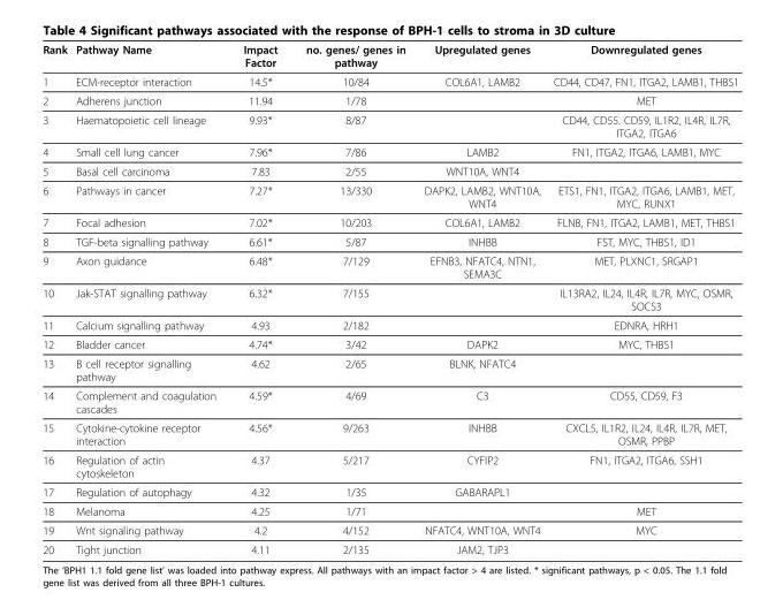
<table><thead><tr><td>Rank</td><td>Pathway Name</td><td>Impact Factor</td><td>no. genes/ genes in pathway</td><td>Upregulated genes</td><td>Downregulated genes</td></tr></thead><tbody><tr><td>1</td><td>ECM-receptor interaction</td><td>14.5*</td><td>10/84</td><td>COL6A1, LAMB2</td><td>CD44, CD47, FN1, ITGA2, LAMB1, THBS1</td></tr><tr><td>2</td><td>Adherens junction</td><td>11.94</td><td>1/78</td><td></td><td>MET</td></tr><tr><td>3</td><td>Haematopoietic cell lineage</td><td>9.93*</td><td>8/87</td><td></td><td>CD44, CD55. CD59, IL1R2, IL4R, IL7R, ITGA2, ITGA6</td></tr><tr><td>4</td><td>Small cell lung cancer</td><td>7.96*</td><td>7/86</td><td>LAMB2</td><td>FN1, ITGA2, ITGA6, LAMB1, MYC</td></tr><tr><td>5</td><td>Basal cell carcinoma</td><td>7.83</td><td>2/55</td><td>WNT10A, WNT4</td><td></td></tr><tr><td>6</td><td>Pathways in cancer</td><td>7.27*</td><td>13/330</td><td>DAPK2, LAMB2, WNT10A, WNT4</td><td>ETS1, FN1, ITGA2, ITGA6, LAMB1, MET, MYC, RUNX1</td></tr><tr><td>7</td><td>Focal adhesion</td><td>7.02*</td><td>10/203</td><td>COL6A1, LAMB2</td><td>FLNB, FN1, ITGA2, LAMB1, MET, THBS1</td></tr><tr><td>8</td><td>TGF-beta signalling pathway</td><td>6.61*</td><td>5/87</td><td>INHBB</td><td>FST, MYC, THBS1, ID1</td></tr><tr><td>9</td><td>Axon guidance</td><td>6.48*</td><td>7/129</td><td>EFNB3, NFATC4, NTN1, SEMA3C</td><td>MET, PLXNC1, SRGAP1</td></tr><tr><td>10</td><td>Jak-STAT signalling pathway</td><td>6.32*</td><td>7/155</td><td></td><td>IL13RA2, IL24, IL4R, IL7R, MYC, OSMR, SOCS3</td></tr><tr><td>11</td><td>Calcium signalling pathway</td><td>4.93</td><td>2/182</td><td></td><td>EDNRA, HRH1</td></tr><tr><td>12</td><td>Bladder cancer</td><td>4.74*</td><td>3/42</td><td>DAPK2</td><td>MYC, THBS1</td></tr><tr><td>13</td><td>B cell receptor signalling pathway</td><td>4.62</td><td>2/65</td><td>BLNK, NFATC4</td><td></td></tr><tr><td>14</td><td>Complement and coagulation cascades</td><td>4.59*</td><td>4/69</td><td>C3</td><td>CD55, CD59, F3</td></tr><tr><td>15</td><td>Cytokine-cytokine receptor interaction</td><td>4.56*</td><td>9/263</td><td>INHBB</td><td>CXCL5, IL1R2, IL24, IL4R, IL7R, MET, OSMR, PPBP</td></tr><tr><td>16</td><td>Regulation of actin cytoskeleton</td><td>4.37</td><td>5/217</td><td>CYFIP2</td><td>FN1, ITGA2, ITGA6, SSH1</td></tr><tr><td>17</td><td>Regulation of autophagy</td><td>4.32</td><td>1/35</td><td>GABARAPL1</td><td></td></tr><tr><td>18</td><td>Melanoma</td><td>4.25</td><td>1/71</td><td></td><td>MET</td></tr><tr><td>19</td><td>Wnt signaling pathway</td><td>4.2</td><td>4/152</td><td>NFATC4, WNT10A, WNT4</td><td>MYC</td></tr><tr><td>20</td><td>Tight junction</td><td>4.11</td><td>2/135</td><td>JAM2, TJP3</td><td></td></tr></tbody></table>